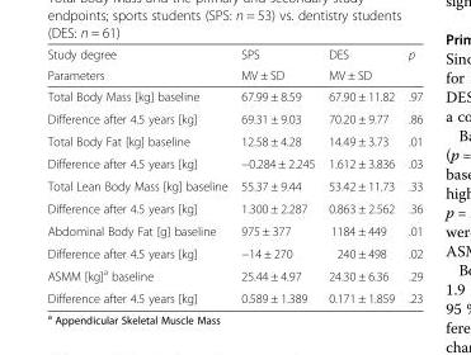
<table><thead><tr><td rowspan="2">Study degree Parameters</td><td rowspan="2">SPS MV ± SD</td><td rowspan="2">DES MV ± SD</td><td rowspan="2">p</td></tr><tr></tr></thead><tbody><tr><td>Total Body Mass [kg] baseline</td><td>67.99 ± 8.59</td><td>67.90 ± 11.82</td><td>.97</td></tr><tr><td>Difference after 4.5 years [kg]</td><td>69.31 ± 9.03</td><td>70.20 ± 9.77</td><td>.86</td></tr><tr><td>Total Body Fat [kg] baseline</td><td>12.58 ± 4.28</td><td>14.49 ± 3.73</td><td>.01</td></tr><tr><td>Difference after 4.5 years [kg]</td><td>−0.284 ± 2.245</td><td>1.612 ± 3.836</td><td>.03</td></tr><tr><td>Total Lean Body Mass [kg] baseline</td><td>55.37 ± 9.44</td><td>53.42 ± 11.73</td><td>.33</td></tr><tr><td>Difference after 4.5 years [kg]</td><td>1.300 ± 2.287</td><td>0.863 ± 2.562</td><td>.36</td></tr><tr><td>Abdominal Body Fat [g] baseline</td><td>975 ± 377</td><td>1184 ± 449</td><td>.01</td></tr><tr><td>Difference after 4.5 years [kg]</td><td>−14 ± 270</td><td>240 ± 498</td><td>.02</td></tr><tr><td>ASMM [kg]<sup>a</sup> baseline</td><td>25.44 ± 4.97</td><td>24.30 ± 6.36</td><td>.29</td></tr><tr><td>Difference after 4.5 years [kg]</td><td>0.589 ± 1.389</td><td>0.171 ± 1.859</td><td>.23</td></tr></tbody></table>